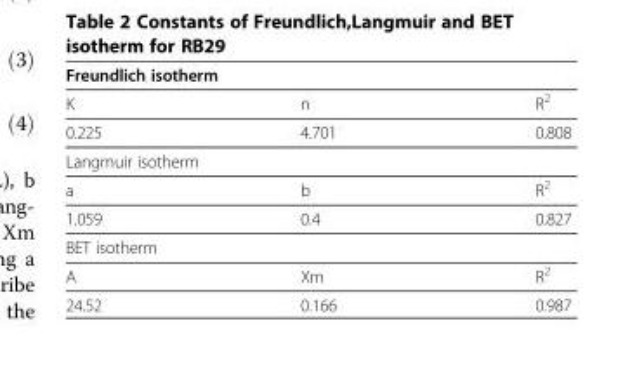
<table><thead><tr><td colspan="3">Freundlich isotherm</td></tr><tr><td>K</td><td>n</td><td>R<sup>2</sup></td></tr></thead><tbody><tr><td>0.225</td><td>4.701</td><td>0.808</td></tr><tr><td colspan="3">Langmuir isotherm</td></tr><tr><td>a</td><td>b</td><td>R<sup>2</sup></td></tr><tr><td>1.059</td><td>0.4</td><td>0.827</td></tr><tr><td colspan="3">BET isotherm</td></tr><tr><td>A</td><td>Xm</td><td>R<sup>2</sup></td></tr><tr><td>24.52</td><td>0.166</td><td>0.987</td></tr></tbody></table>